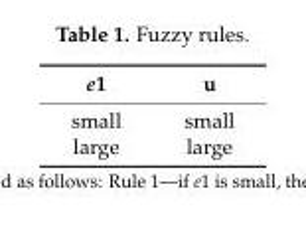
<table><thead><tr><td>e1</td><td>u</td></tr></thead><tbody><tr><td>small</td><td>small</td></tr><tr><td>large</td><td>large</td></tr></tbody></table>